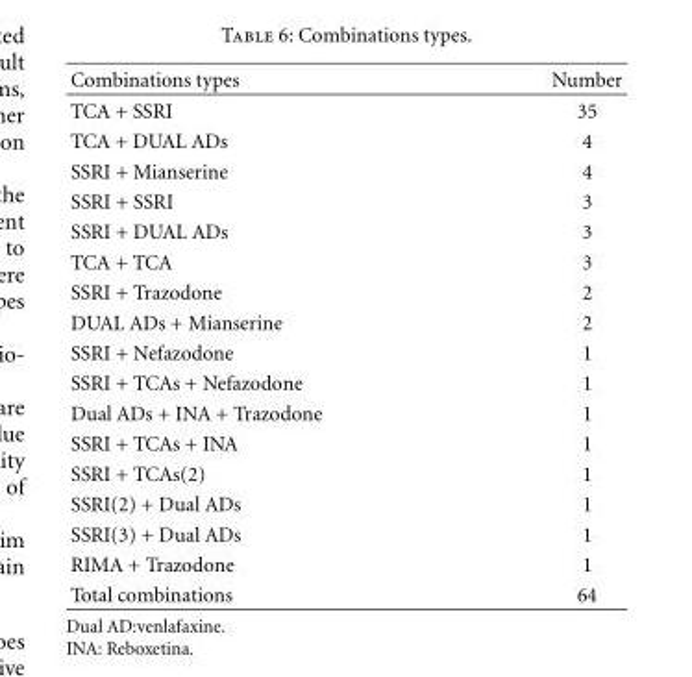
<table><thead><tr><td>Combinations types</td><td>Number</td></tr></thead><tbody><tr><td>TCA + SSRI</td><td>35</td></tr><tr><td>TCA + DUAL ADs</td><td>4</td></tr><tr><td>SSRI + Mianserine</td><td>4</td></tr><tr><td>SSRI + SSRI</td><td>3</td></tr><tr><td>SSRI + DUAL ADs</td><td>3</td></tr><tr><td>TCA + TCA</td><td>3</td></tr><tr><td>SSRI + Trazodone</td><td>2</td></tr><tr><td>DUAL ADs + Mianserine</td><td>2</td></tr><tr><td>SSRI + Nefazodone</td><td>1</td></tr><tr><td>SSRI + TCAs + Nefazodone</td><td>1</td></tr><tr><td>Dual ADs + INA + Trazodone</td><td>1</td></tr><tr><td>SSRI + TCAs + INA</td><td>1</td></tr><tr><td>SSRI + TCAs(2)</td><td>1</td></tr><tr><td>SSRI(2) + Dual ADs</td><td>1</td></tr><tr><td>SSRI(3) + Dual ADs</td><td>1</td></tr><tr><td>RIMA + Trazodone</td><td>1</td></tr><tr><td>Total combinations</td><td>64</td></tr></tbody></table>